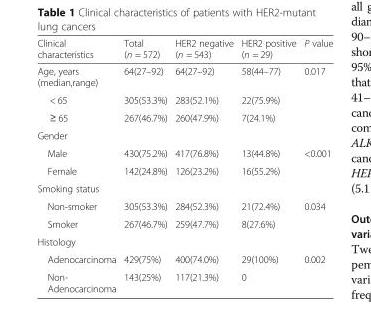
<table><thead><tr><td>Clinical characteristics</td><td>Total (n = 572)</td><td>HER2 negative (n = 543)</td><td>HER2 positive (n = 29)</td><td>P value</td></tr></thead><tbody><tr><td>Age, years (median,range)</td><td>64(27–92)</td><td>64(27–92)</td><td>58(44–77)</td><td>0.017</td></tr><tr><td>&lt; 65</td><td>305(53.3%)</td><td>283(52.1%)</td><td>22(75.9%)</td><td></td></tr><tr><td>≥ 65</td><td>267(46.7%)</td><td>260(47.9%)</td><td>7(24.1%)</td><td></td></tr><tr><td colspan="5">Gender</td></tr><tr><td>Male</td><td>430(75.2%)</td><td>417(76.8%)</td><td>13(44.8%)</td><td>&lt;0.001</td></tr><tr><td>Female</td><td>142(24.8%)</td><td>126(23.2%)</td><td>16(55.2%)</td><td></td></tr><tr><td colspan="5">Smoking status</td></tr><tr><td>Non-smoker</td><td>305(53.3%)</td><td>284(52.3%)</td><td>21(72.4%)</td><td>0.034</td></tr><tr><td>Smoker</td><td>267(46.7%)</td><td>259(47.7%)</td><td>8(27.6%)</td><td></td></tr><tr><td colspan="5">Histology</td></tr><tr><td>Adenocarcinoma</td><td>429(75%)</td><td>400(74.0%)</td><td>29(100%)</td><td>0.002</td></tr><tr><td>Non- Adenocarcinoma</td><td>143(25%)</td><td>117(21.3%)</td><td>0</td><td></td></tr></tbody></table>